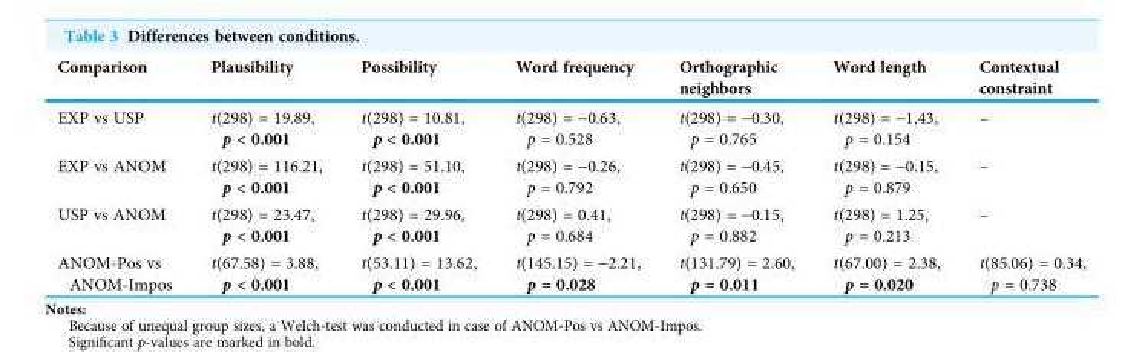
<table><thead><tr><td>Comparison</td><td>Plausibility</td><td>Possibility</td><td>Word frequency</td><td>Orthographic neighbors</td><td>Word length</td><td>Contextual constraint</td></tr></thead><tbody><tr><td>EXP vs USP</td><td>t(298) = 19.89, p &lt; 0.001</td><td>t(298) = 10.81, p &lt; 0.001</td><td>t(298) = -0.63, p = 0.528</td><td>t(298) = -0.30, p = 0.765</td><td>t(298) = -1.43, p = 0.154</td><td>–</td></tr><tr><td>EXP vs ANOM</td><td>t(298) = 116.21, p &lt; 0.001</td><td>t(298) = 51.10, p &lt; 0.001</td><td>t(298) = -0.26, p = 0.792</td><td>t(298) = -0.45, p = 0.650</td><td>t(298) = -0.15, p = 0.879</td><td>–</td></tr><tr><td>USP vs ANOM</td><td>t(298) = 23.47, p &lt; 0.001</td><td>t(298) = 29.96, p &lt; 0.001</td><td>t(298) = 0.41, p = 0.684</td><td>t(298) = -0.15, p = 0.882</td><td>t(298) = 1.25, p = 0.213</td><td>–</td></tr><tr><td>ANOM-Pos vs ANOM-Impos</td><td>t(67.58) = 3.88, p &lt; 0.001</td><td>t(53.11) = 13.62, p &lt; 0.001</td><td>t(145.15) = -2.21, p = 0.028</td><td>t(131.79) = 2.60, p = 0.011</td><td>t(67.00) = 2.38, p = 0.020</td><td>t(85.06) = 0.34, p = 0.738</td></tr></tbody></table>